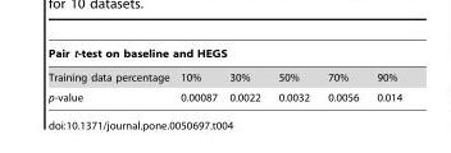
<table><thead><tr><td colspan="6">Pair t-test on baseline and HEGS</td></tr><tr><td>Training data percentage</td><td>10%</td><td>30%</td><td>50%</td><td>70%</td><td>90%</td></tr></thead><tbody><tr><td>p-value</td><td>0.00087</td><td>0.0022</td><td>0.0032</td><td>0.0056</td><td>0.014</td></tr></tbody></table>